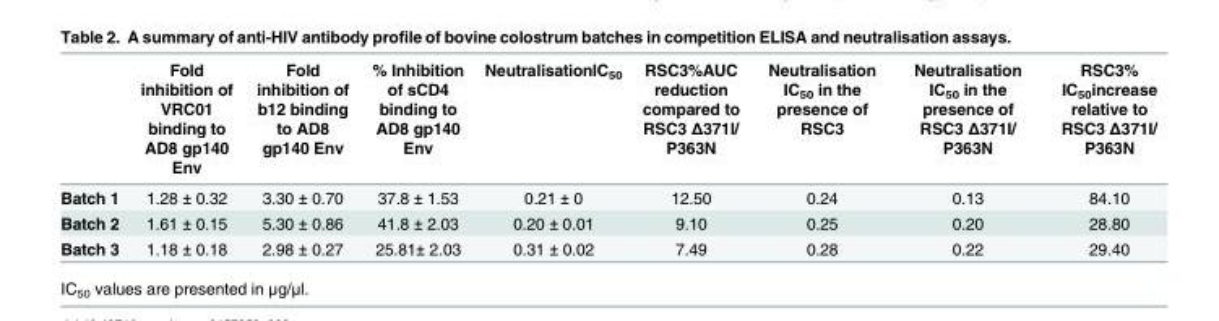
<table><thead><tr><td></td><td>Fold inhibition of VRC01 binding to AD8 gp140 Env</td><td>Fold inhibition of b12 binding to AD8 gp140 Env</td><td>% Inhibition of sCD4 binding to AD8 gp140 Env</td><td>NeutralisationIC<sub>50</sub></td><td>RSC3%AUC reduction compared to RSC3 Δ371I/ P363N</td><td>Neutralisation IC<sub>50</sub> in the presence of RSC3</td><td>Neutralisation IC<sub>50</sub> in the presence of RSC3 Δ371I/ P363N</td><td>RSC3% IC<sub>50</sub>increase relative to RSC3 Δ371I/ P363N</td></tr></thead><tbody><tr><td>Batch 1</td><td>1.28 ± 0.32</td><td>3.30 ± 0.70</td><td>37.8 ± 1.53</td><td>0.21 ± 0</td><td>12.50</td><td>0.24</td><td>0.13</td><td>84.10</td></tr><tr><td>Batch 2</td><td>1.61 ± 0.15</td><td>5.30 ± 0.86</td><td>41.8 ± 2.03</td><td>0.20 ± 0.01</td><td>9.10</td><td>0.25</td><td>0.20</td><td>28.80</td></tr><tr><td>Batch 3</td><td>1.18 ± 0.18</td><td>2.98 ± 0.27</td><td>25.81± 2.03</td><td>0.31 ± 0.02</td><td>7.49</td><td>0.28</td><td>0.22</td><td>29.40</td></tr></tbody></table>